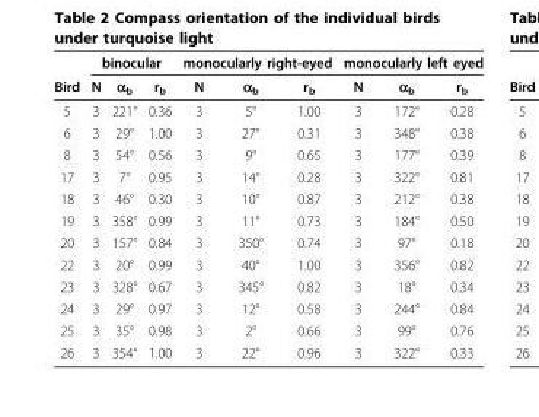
<table><thead><tr><td rowspan="2">Bird</td><td colspan="3">binocular</td><td colspan="3">monocularly right-eyed</td><td colspan="3">monocularly left eyed</td></tr><tr><td>N</td><td>α<sub>b</sub></td><td>r<sub>b</sub></td><td>N</td><td>α<sub>b</sub></td><td>r<sub>b</sub></td><td>N</td><td>α<sub>b</sub></td><td>r<sub>b</sub></td></tr></thead><tbody><tr><td>5</td><td>3</td><td>221°</td><td>0.36</td><td>3</td><td>5°</td><td>1.00</td><td>3</td><td>172°</td><td>0.28</td></tr><tr><td>6</td><td>3</td><td>29°</td><td>1.00</td><td>3</td><td>27°</td><td>0.31</td><td>3</td><td>348°</td><td>0.38</td></tr><tr><td>8</td><td>3</td><td>54°</td><td>0.56</td><td>3</td><td>9°</td><td>0.65</td><td>3</td><td>177°</td><td>0.39</td></tr><tr><td>17</td><td>3</td><td>7°</td><td>0.95</td><td>3</td><td>14°</td><td>0.28</td><td>3</td><td>322°</td><td>0.81</td></tr><tr><td>18</td><td>3</td><td>46°</td><td>0.30</td><td>3</td><td>10°</td><td>0.87</td><td>3</td><td>212°</td><td>0.38</td></tr><tr><td>19</td><td>3</td><td>358°</td><td>0.99</td><td>3</td><td>11°</td><td>0.73</td><td>3</td><td>184°</td><td>0.50</td></tr><tr><td>20</td><td>3</td><td>157°</td><td>0.84</td><td>3</td><td>350°</td><td>0.74</td><td>3</td><td>97°</td><td>0.18</td></tr><tr><td>22</td><td>3</td><td>20°</td><td>0.99</td><td>3</td><td>40°</td><td>1.00</td><td>3</td><td>356°</td><td>0.82</td></tr><tr><td>23</td><td>3</td><td>328°</td><td>0.67</td><td>3</td><td>345°</td><td>0.82</td><td>3</td><td>18°</td><td>0.34</td></tr><tr><td>24</td><td>3</td><td>29°</td><td>0.97</td><td>3</td><td>12°</td><td>0.58</td><td>3</td><td>244°</td><td>0.84</td></tr><tr><td>25</td><td>3</td><td>35°</td><td>0.98</td><td>3</td><td>2°</td><td>0.66</td><td>3</td><td>99°</td><td>0.76</td></tr><tr><td>26</td><td>3</td><td>354°</td><td>1.00</td><td>3</td><td>22°</td><td>0.96</td><td>3</td><td>322°</td><td>0.33</td></tr></tbody></table>